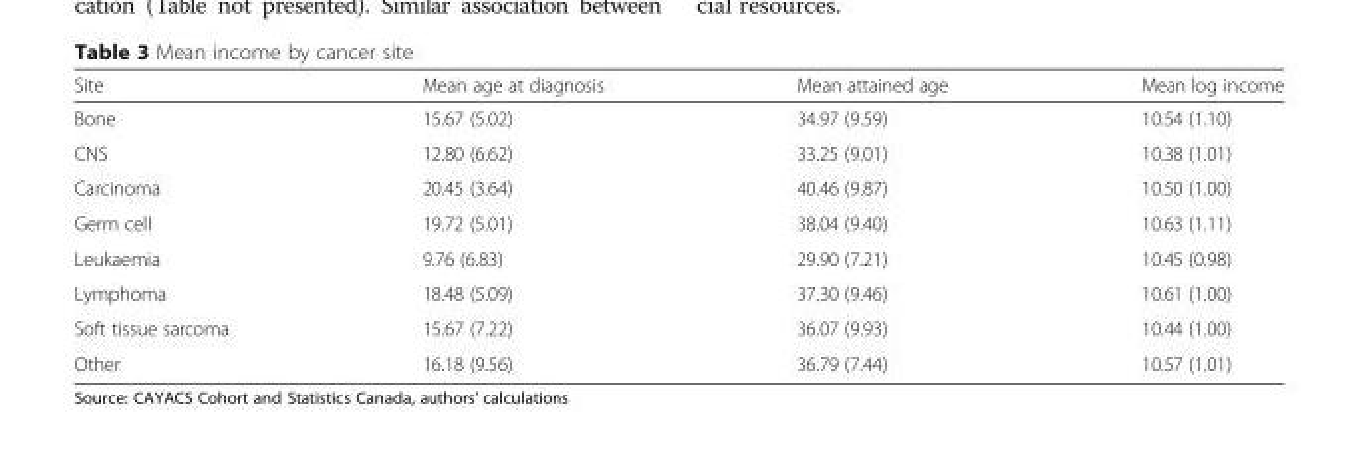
<table><thead><tr><td>Site</td><td>Mean age at diagnosis</td><td>Mean attained age</td><td>Mean log income</td></tr></thead><tbody><tr><td>Bone</td><td>15.67 (5.02)</td><td>34.97 (9.59)</td><td>10.54 (1.10)</td></tr><tr><td>CNS</td><td>12.80 (6.62)</td><td>33.25 (9.01)</td><td>10.38 (1.01)</td></tr><tr><td>Carcinoma</td><td>20.45 (3.64)</td><td>40.46 (9.87)</td><td>10.50 (1.00)</td></tr><tr><td>Germ cell</td><td>19.72 (5.01)</td><td>38.04 (9.40)</td><td>10.63 (1.11)</td></tr><tr><td>Leukaemia</td><td>9.76 (6.83)</td><td>29.90 (7.21)</td><td>10.45 (0.98)</td></tr><tr><td>Lymphoma</td><td>18.48 (5.09)</td><td>37.30 (9.46)</td><td>10.61 (1.00)</td></tr><tr><td>Soft tissue sarcoma</td><td>15.67 (7.22)</td><td>36.07 (9.93)</td><td>10.44 (1.00)</td></tr><tr><td>Other</td><td>16.18 (9.56)</td><td>36.79 (7.44)</td><td>10.57 (1.01)</td></tr></tbody></table>